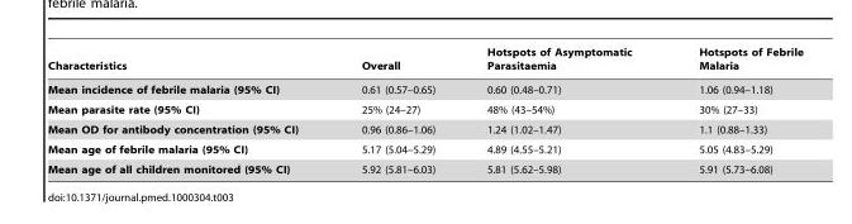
<table><thead><tr><td>Characteristics</td><td>Overall</td><td>Hotspots of Asymptomatic Parasitaemia</td><td>Hotspots of Febrile Malaria</td></tr></thead><tbody><tr><td>Mean incidence of febrile malaria (95% CI)</td><td>0.61 (0.57–0.65)</td><td>0.60 (0.48–0.71)</td><td>1.06 (0.94–1.18)</td></tr><tr><td>Mean parasite rate (95% CI)</td><td>25% (24–27)</td><td>48% (43–54%)</td><td>30% (27–33)</td></tr><tr><td>Mean OD for antibody concentration (95% CI)</td><td>0.96 (0.86–1.06)</td><td>1.24 (1.02–1.47)</td><td>1.1 (0.88–1.33)</td></tr><tr><td>Mean age of febrile malaria (95% CI)</td><td>5.17 (5.04–5.29)</td><td>4.89 (4.55–5.21)</td><td>5.05 (4.83–5.29)</td></tr><tr><td>Mean age of all children monitored (95% CI)</td><td>5.92 (5.81–6.03)</td><td>5.81 (5.62–5.98)</td><td>5.91 (5.73–6.08)</td></tr></tbody></table>